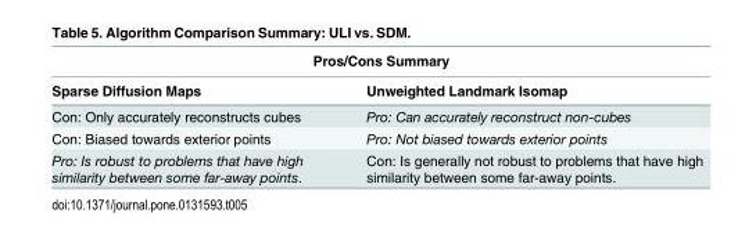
<table><thead><tr><td colspan="2">Pros/Cons Summary</td></tr><tr><td>Sparse Diffusion Maps</td><td>Unweighted Landmark Isomap</td></tr></thead><tbody><tr><td>Con: Only accurately reconstructs cubes</td><td>Pro: Can accurately reconstruct non-cubes</td></tr><tr><td>Con: Biased towards exterior points</td><td>Pro: Not biased towards exterior points</td></tr><tr><td>Pro: Is robust to problems that have high similarity between some far-away points.</td><td>Con: Is generally not robust to problems that have high similarity between some far-away points.</td></tr></tbody></table>